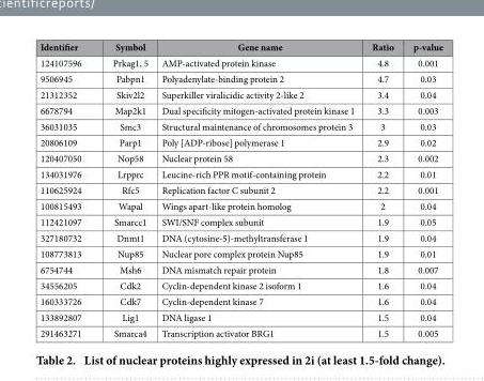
<table><thead><tr><td>Identifier</td><td>Symbol</td><td>Gene name</td><td>Ratio</td><td>p-value</td></tr></thead><tbody><tr><td>124107596</td><td>Prkag1, 5</td><td>AMP-activated protein kinase</td><td>4.8</td><td>0.001</td></tr><tr><td>9506945</td><td>Pabpn1</td><td>Polyadenylate-binding protein 2</td><td>4.7</td><td>0.03</td></tr><tr><td>21312352</td><td>Skiv2l2</td><td>Superkiller viralicidic activity 2-like 2</td><td>3.4</td><td>0.04</td></tr><tr><td>6678794</td><td>Map2k1</td><td>Dual specificity mitogen-activated protein kinase 1</td><td>3.3</td><td>0.003</td></tr><tr><td>36031035</td><td>Smc3</td><td>Structural maintenance of chromosomes protein 3</td><td>3</td><td>0.03</td></tr><tr><td>20806109</td><td>Parp1</td><td>Poly [ADP-ribose] polymerase 1</td><td>2.9</td><td>0.02</td></tr><tr><td>120407050</td><td>Nop58</td><td>Nuclear protein 58</td><td>2.3</td><td>0.002</td></tr><tr><td>134031976</td><td>Lrpprc</td><td>Leucine-rich PPR motif-containing protein</td><td>2.2</td><td>0.01</td></tr><tr><td>110625924</td><td>Rfc5</td><td>Replication factor C subunit 2</td><td>2.2</td><td>0.001</td></tr><tr><td>100815493</td><td>Wapal</td><td>Wings apart-like protein homolog</td><td>2</td><td>0.04</td></tr><tr><td>112421097</td><td>Smarcc1</td><td>SWI/SNF complex subunit</td><td>1.9</td><td>0.05</td></tr><tr><td>327180732</td><td>Dnmt1</td><td>DNA (cytosine-5)-methyltransferase 1</td><td>1.9</td><td>0.04</td></tr><tr><td>108773813</td><td>Nup85</td><td>Nuclear pore complex protein Nup85</td><td>1.9</td><td>0.01</td></tr><tr><td>6754744</td><td>Msh6</td><td>DNA mismatch repair protein</td><td>1.8</td><td>0.007</td></tr><tr><td>34556205</td><td>Cdk2</td><td>Cyclin-dependent kinase 2 isoform 1</td><td>1.6</td><td>0.04</td></tr><tr><td>160333726</td><td>Cdk7</td><td>Cyclin-dependent kinase 7</td><td>1.6</td><td>0.04</td></tr><tr><td>133892807</td><td>Lig1</td><td>DNA ligase 1</td><td>1.5</td><td>0.04</td></tr><tr><td>291463271</td><td>Smarca4</td><td>Transcription activator BRG1</td><td>1.5</td><td>0.005</td></tr></tbody></table>